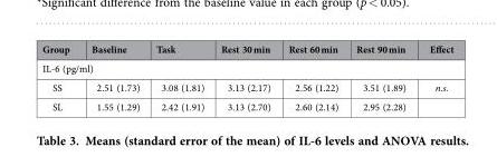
<table><thead><tr><td>Group</td><td>Baseline</td><td>Task</td><td>Rest 30 min</td><td>Rest 60 min</td><td>Rest 90 min</td><td>Effect</td></tr></thead><tbody><tr><td colspan="7">IL-6 (pg/ml)</td></tr><tr><td>SS</td><td>2.51 (1.73)</td><td>3.08 (1.81)</td><td>3.13 (2.17)</td><td>2.56 (1.22)</td><td>3.51 (1.89)</td><td>n.s.</td></tr><tr><td>SL</td><td>1.55 (1.29)</td><td>2.42 (1.91)</td><td>3.13 (2.70)</td><td>2.60 (2.14)</td><td>2.95 (2.28)</td><td></td></tr></tbody></table>